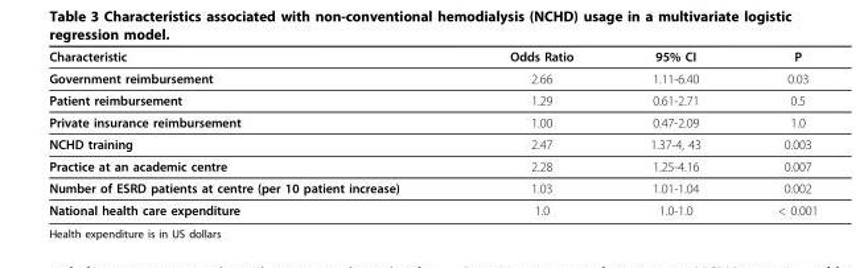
<table><thead><tr><td>Characteristic</td><td>Odds Ratio</td><td>95% CI</td><td>P</td></tr></thead><tbody><tr><td>Government reimbursement</td><td>2.66</td><td>1.11-6.40</td><td>0.03</td></tr><tr><td>Patient reimbursement</td><td>1.29</td><td>0.61-2.71</td><td>0.5</td></tr><tr><td>Private insurance reimbursement</td><td>1.00</td><td>0.47-2.09</td><td>1.0</td></tr><tr><td>NCHD training</td><td>2.47</td><td>1.37-4, 43</td><td>0.003</td></tr><tr><td>Practice at an academic centre</td><td>2.28</td><td>1.25-4.16</td><td>0.007</td></tr><tr><td>Number of ESRD patients at centre (per 10 patient increase)</td><td>1.03</td><td>1.01-1.04</td><td>0.002</td></tr><tr><td>National health care expenditure</td><td>1.0</td><td>1.0-1.0</td><td>&lt; 0.001</td></tr></tbody></table>